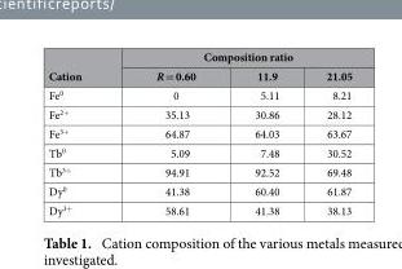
<table><thead><tr><td rowspan="2">Cation</td><td colspan="3">Composition ratio</td></tr><tr><td>R = 0.60</td><td>11.9</td><td>21.05</td></tr></thead><tbody><tr><td>Fe<sup>0</sup></td><td>0</td><td>5.11</td><td>8.21</td></tr><tr><td>Fe<sup>2+</sup></td><td>35.13</td><td>30.86</td><td>28.12</td></tr><tr><td>Fe<sup>3+</sup></td><td>64.87</td><td>64.03</td><td>63.67</td></tr><tr><td>Tb<sup>0</sup></td><td>5.09</td><td>7.48</td><td>30.52</td></tr><tr><td>Tb<sup>3+</sup></td><td>94.91</td><td>92.52</td><td>69.48</td></tr><tr><td>Dy<sup>0</sup></td><td>41.38</td><td>60.40</td><td>61.87</td></tr><tr><td>Dy<sup>3+</sup></td><td>58.61</td><td>41.38</td><td>38.13</td></tr></tbody></table>